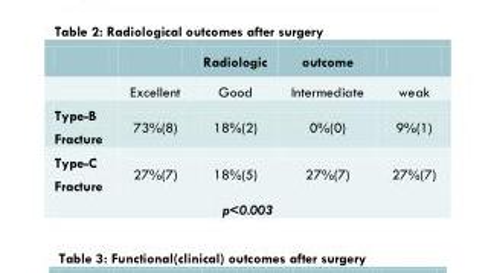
<table><thead><tr><td></td><td></td><td>Radiologic</td><td>outcome</td><td></td></tr></thead><tbody><tr><td></td><td>Excellent</td><td>Good</td><td>Intermediate</td><td>weak</td></tr><tr><td>Type-B Fracture</td><td>73%(8)</td><td>18%(2)</td><td>0%(0)</td><td>9%(1)</td></tr><tr><td rowspan="2">Type-C Fracture</td><td>27%(7)</td><td>18%(5)</td><td>27%(7)</td><td>27%(7)</td></tr><tr><td></td><td>p&lt;0.003</td><td></td><td></td></tr></tbody></table>